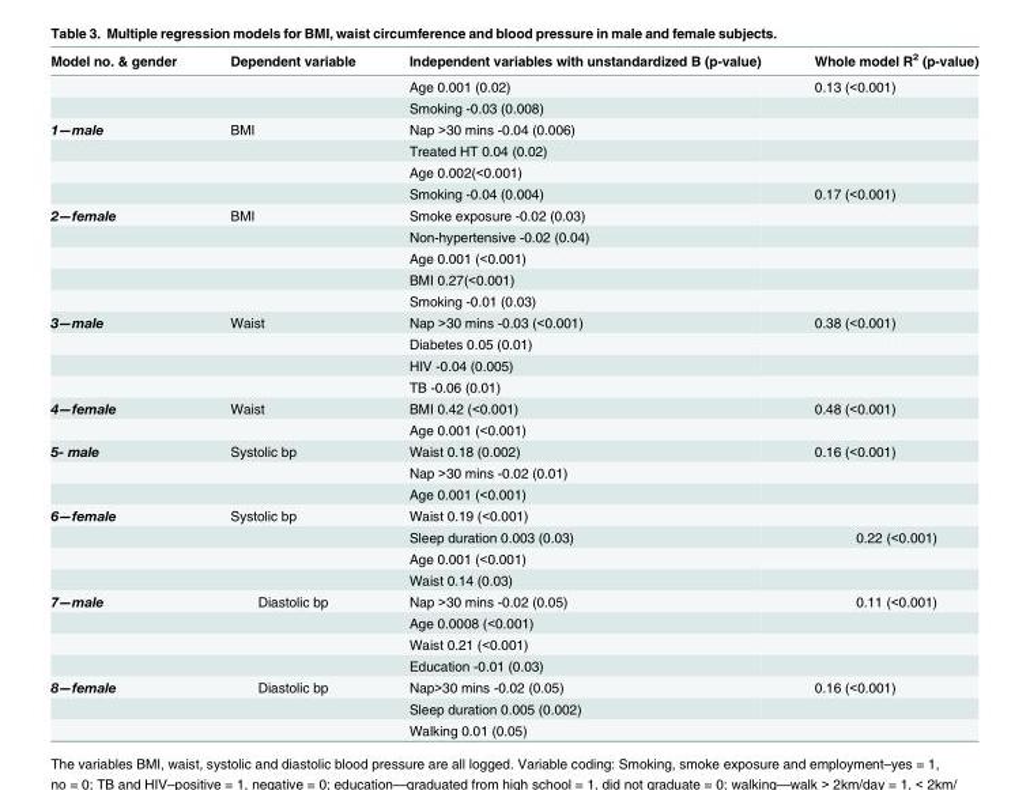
<table><thead><tr><td>Model no. &amp; gender</td><td>Dependent variable</td><td>Independent variables with unstandardized B (p-value)</td><td>Whole model R<sup>2</sup> (p-value)</td></tr></thead><tbody><tr><td></td><td></td><td>Age 0.001 (0.02)</td><td>0.13 (&lt;0.001)</td></tr><tr><td></td><td></td><td>Smoking -0.03 (0.008)</td><td></td></tr><tr><td rowspan="4">1—male</td><td>BMI</td><td>Nap &gt;30 mins -0.04 (0.006)</td><td></td></tr><tr><td></td><td>Treated HT 0.04 (0.02)</td><td></td></tr><tr><td></td><td>Age 0.002(&lt;0.001)</td><td></td></tr><tr><td></td><td>Smoking -0.04 (0.004)</td><td>0.17 (&lt;0.001)</td></tr><tr><td rowspan="5">2—female</td><td>BMI</td><td>Smoke exposure -0.02 (0.03)</td><td></td></tr><tr><td></td><td>Non-hypertensive -0.02 (0.04)</td><td></td></tr><tr><td></td><td>Age 0.001 (&lt;0.001)</td><td></td></tr><tr><td></td><td>BMI 0.27(&lt;0.001)</td><td></td></tr><tr><td></td><td>Smoking -0.01 (0.03)</td><td></td></tr><tr><td rowspan="4">3—male</td><td>Waist</td><td>Nap &gt;30 mins -0.03 (&lt;0.001)</td><td>0.38 (&lt;0.001)</td></tr><tr><td></td><td>Diabetes 0.05 (0.01)</td><td></td></tr><tr><td></td><td>HIV -0.04 (0.005)</td><td></td></tr><tr><td></td><td>TB -0.06 (0.01)</td><td></td></tr><tr><td rowspan="2">4—female</td><td>Waist</td><td>BMI 0.42 (&lt;0.001)</td><td>0.48 (&lt;0.001)</td></tr><tr><td></td><td>Age 0.001 (&lt;0.001)</td><td></td></tr><tr><td rowspan="3">5- male</td><td>Systolic bp</td><td>Waist 0.18 (0.002)</td><td>0.16 (&lt;0.001)</td></tr><tr><td></td><td>Nap &gt;30 mins -0.02 (0.01)</td><td></td></tr><tr><td></td><td>Age 0.001 (&lt;0.001)</td><td></td></tr><tr><td rowspan="4">6—female</td><td>Systolic bp</td><td>Waist 0.19 (&lt;0.001)</td><td></td></tr><tr><td></td><td>Sleep duration 0.003 (0.03)</td><td>0.22 (&lt;0.001)</td></tr><tr><td></td><td>Age 0.001 (&lt;0.001)</td><td></td></tr><tr><td></td><td>Waist 0.14 (0.03)</td><td></td></tr><tr><td rowspan="4">7—male</td><td>Diastolic bp</td><td>Nap &gt;30 mins -0.02 (0.05)</td><td>0.11 (&lt;0.001)</td></tr><tr><td></td><td>Age 0.0008 (&lt;0.001)</td><td></td></tr><tr><td></td><td>Waist 0.21 (&lt;0.001)</td><td></td></tr><tr><td></td><td>Education -0.01 (0.03)</td><td></td></tr><tr><td rowspan="3">8—female</td><td>Diastolic bp</td><td>Nap&gt;30 mins -0.02 (0.05)</td><td>0.16 (&lt;0.001)</td></tr><tr><td></td><td>Sleep duration 0.005 (0.002)</td><td></td></tr><tr><td></td><td>Walking 0.01 (0.05)</td><td></td></tr></tbody></table>